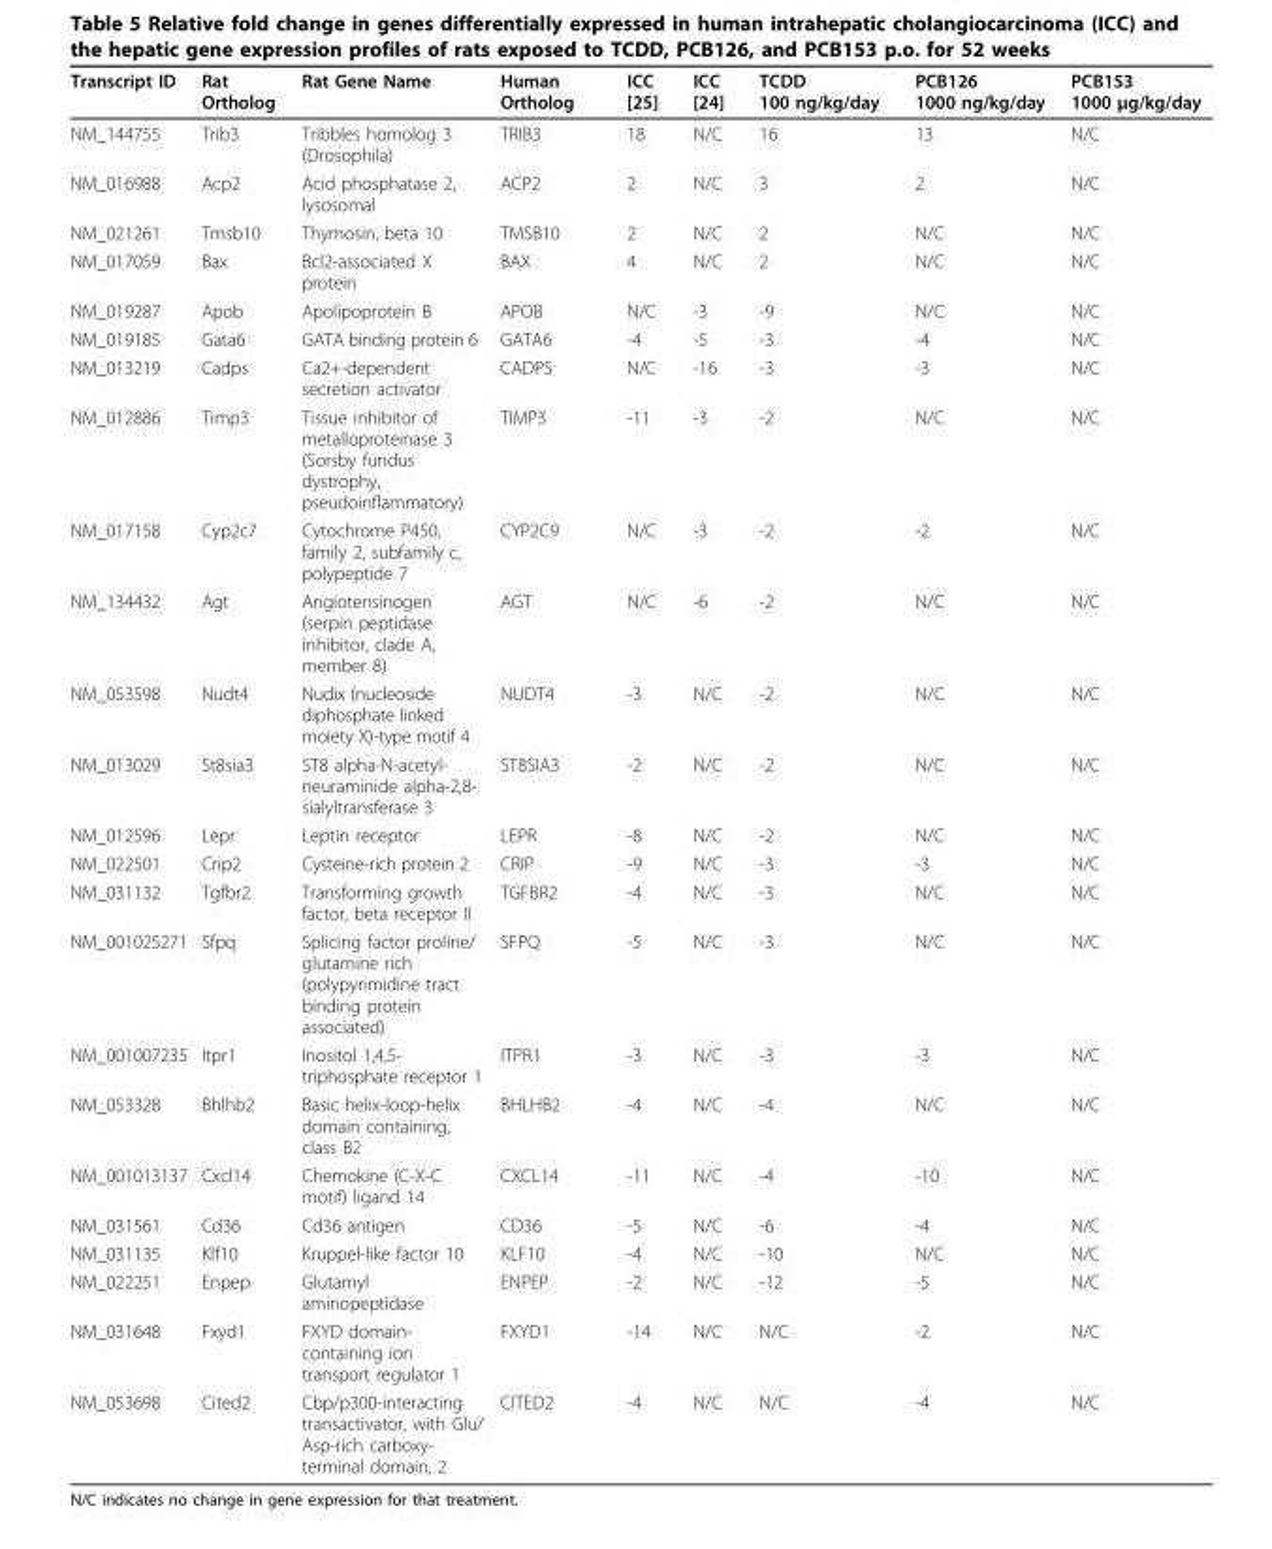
<table><thead><tr><td>Transcript ID</td><td>Rat Ortholog</td><td>Rat Gene Name</td><td>Human Ortholog</td><td>ICC [25]</td><td>ICC [24]</td><td>TCDD 100 ng/kg/day</td><td>PCB126 1000 ng/kg/day</td><td>PCB153 1000 μg/kg/day</td></tr></thead><tbody><tr><td>NM_144755</td><td>Trib3</td><td>Tribbles homolog 3 (Drosophila)</td><td>TRIB3</td><td>18</td><td>N/C</td><td>16</td><td>13</td><td>N/C</td></tr><tr><td>NM_016988</td><td>Acp2</td><td>Acid phosphatase 2, lysosomal</td><td>ACP2</td><td>2</td><td>N/C</td><td>3</td><td>2</td><td>N/C</td></tr><tr><td>NM_021261</td><td>Tmsb10</td><td>Thymosin, beta 10</td><td>TMSB10</td><td>2</td><td>N/C</td><td>2</td><td>N/C</td><td>N/C</td></tr><tr><td>NM_017059</td><td>Bax</td><td>Bcl2-associated X protein</td><td>BAX</td><td>4</td><td>N/C</td><td>2</td><td>N/C</td><td>N/C</td></tr><tr><td>NM_019287</td><td>Apob</td><td>Apolipoprotein B</td><td>APOB</td><td>N/C</td><td>-3</td><td>-9</td><td>N/C</td><td>N/C</td></tr><tr><td>NM_019185</td><td>Gata6</td><td>GATA binding protein 6</td><td>GATA6</td><td>-4</td><td>-5</td><td>-3</td><td>-4</td><td>N/C</td></tr><tr><td>NM_013219</td><td>Cadps</td><td>Ca2+-dependent secretion activator</td><td>CADPS</td><td>N/C</td><td>-16</td><td>-3</td><td>-3</td><td>N/C</td></tr><tr><td>NM_012886</td><td>Timp3</td><td>Tissue inhibitor of metalloproteinase 3 (Sorsby fundus dystrophy, pseudoinflammatory)</td><td>TIMP3</td><td>-11</td><td>-3</td><td>-2</td><td>N/C</td><td>N/C</td></tr><tr><td>NM_017158</td><td>Cyp2c7</td><td>Cytochrome P450, family 2, subfamily c, polypeptide 7</td><td>CYP2C9</td><td>N/C</td><td>-3</td><td>-2</td><td>-2</td><td>N/C</td></tr><tr><td>NM_134432</td><td>Agt</td><td>Angiotensinogen (serpin peptidase inhibitor, clade A, member 8)</td><td>AGT</td><td>N/C</td><td>-6</td><td>-2</td><td>N/C</td><td>N/C</td></tr><tr><td>NM_053598</td><td>Nudt4</td><td>Nudix (nucleoside diphosphate linked moiety X)-type motif 4</td><td>NUDT4</td><td>-3</td><td>N/C</td><td>-2</td><td>N/C</td><td>N/C</td></tr><tr><td>NM_013029</td><td>St8sia3</td><td>ST8 alpha-N-acetyl- neuraminide alpha-2,8- sialyltransferase 3</td><td>ST8SIA3</td><td>-2</td><td>N/C</td><td>-2</td><td>N/C</td><td>N/C</td></tr><tr><td>NM_012596</td><td>Lepr</td><td>Leptin receptor</td><td>LEPR</td><td>-8</td><td>N/C</td><td>-2</td><td>N/C</td><td>N/C</td></tr><tr><td>NM_022501</td><td>Crip2</td><td>Cysteine-rich protein 2</td><td>CRIP</td><td>-9</td><td>N/C</td><td>-3</td><td>-3</td><td>N/C</td></tr><tr><td>NM_031132</td><td>Tgfbr2</td><td>Transforming growth factor, beta receptor II</td><td>TGFBR2</td><td>-4</td><td>N/C</td><td>-3</td><td>N/C</td><td>N/C</td></tr><tr><td>NM_001025271</td><td>Sfpq</td><td>Splicing factor proline/ glutamine rich (polypyrimidine tract binding protein associated)</td><td>SFPQ</td><td>-5</td><td>N/C</td><td>-3</td><td>N/C</td><td>N/C</td></tr><tr><td>NM_001007235</td><td>Itpr1</td><td>Inositol 1,4,5- triphosphate receptor 1</td><td>ITPR1</td><td>-3</td><td>N/C</td><td>-3</td><td>-3</td><td>N/C</td></tr><tr><td>NM_053328</td><td>Bhlhb2</td><td>Basic helix-loop-helix domain containing, class B2</td><td>BHLHB2</td><td>-4</td><td>N/C</td><td>-4</td><td>N/C</td><td>N/C</td></tr><tr><td>NM_001013137</td><td>Cxcl14</td><td>Chemokine (C-X-C motif) ligand 14</td><td>CXCL14</td><td>-11</td><td>N/C</td><td>-4</td><td>-10</td><td>N/C</td></tr><tr><td>NM_031561</td><td>Cd36</td><td>Cd36 antigen</td><td>CD36</td><td>-5</td><td>N/C</td><td>-6</td><td>-4</td><td>N/C</td></tr><tr><td>NM_031135</td><td>Klf10</td><td>Kruppel-like factor 10</td><td>KLF10</td><td>-4</td><td>N/C</td><td>-10</td><td>N/C</td><td>N/C</td></tr><tr><td>NM_022251</td><td>Enpep</td><td>Glutamyl aminopeptidase</td><td>ENPEP</td><td>-2</td><td>N/C</td><td>-12</td><td>-5</td><td>N/C</td></tr><tr><td>NM_031648</td><td>Fxyd1</td><td>FXYD domain- containing ion transport regulator 1</td><td>FXYD1</td><td>-14</td><td>N/C</td><td>N/C</td><td>-2</td><td>N/C</td></tr><tr><td>NM_053698</td><td>Cited2</td><td>Cbp/p300-interacting transactivator, with Glu/ Asp-rich carboxy- terminal domain, 2</td><td>CITED2</td><td>-4</td><td>N/C</td><td>N/C</td><td>-4</td><td>N/C</td></tr></tbody></table>